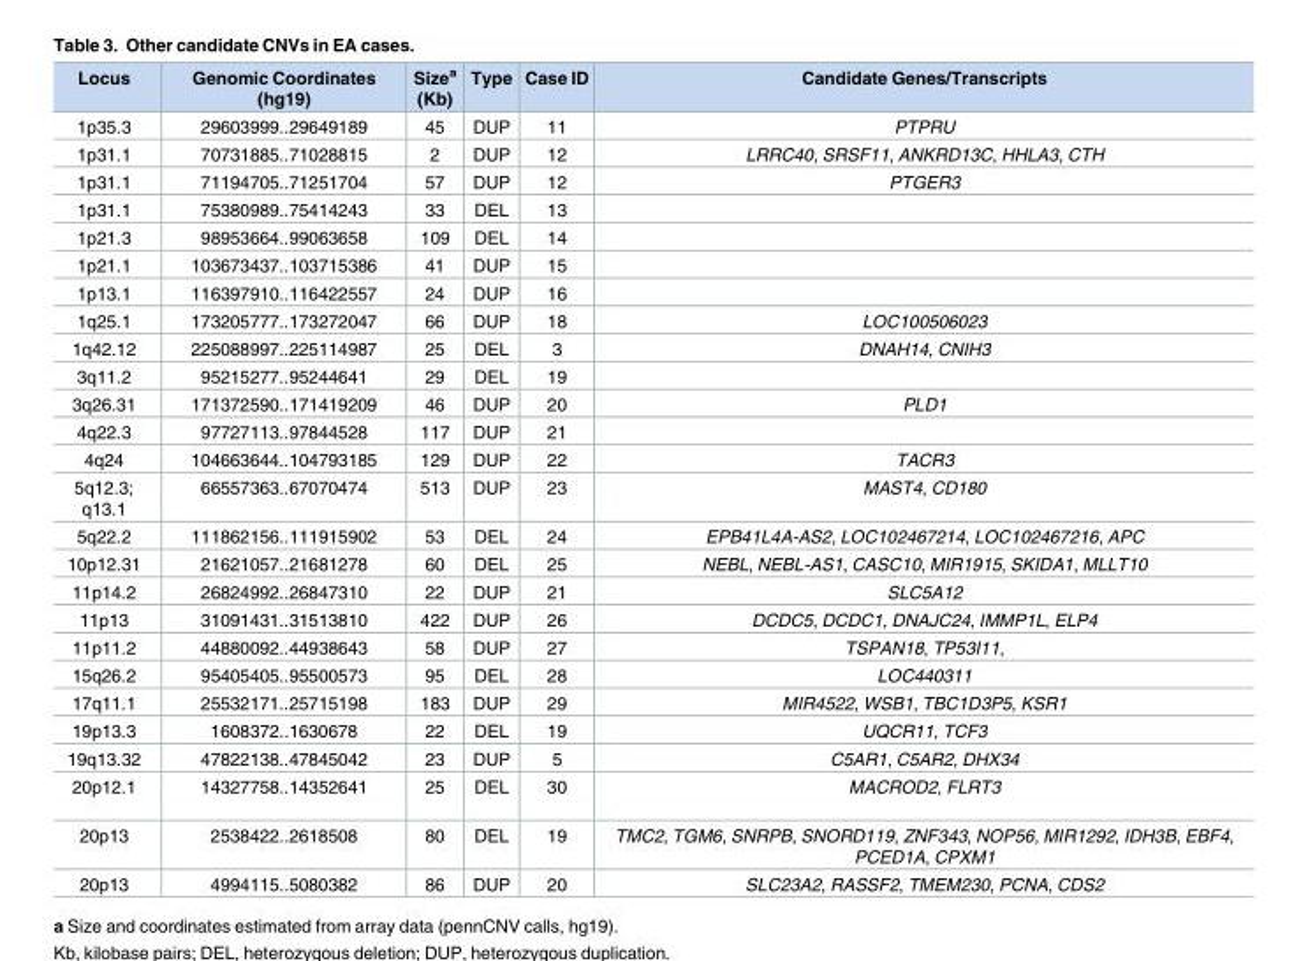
<table><thead><tr><td>Locus</td><td>Genomic Coordinates (hg19)</td><td>Size<sup>a</sup> (Kb)</td><td>Type</td><td>Case ID</td><td>Candidate Genes/Transcripts</td></tr></thead><tbody><tr><td>1p35.3</td><td>29603999..29649189</td><td>45</td><td>DUP</td><td>11</td><td>PTPRU</td></tr><tr><td>1p31.1</td><td>70731885..71028815</td><td>2</td><td>DUP</td><td>12</td><td>LRRC40, SRSF11, ANKRD13C, HHLA3, CTH</td></tr><tr><td>1p31.1</td><td>71194705..71251704</td><td>57</td><td>DUP</td><td>12</td><td>PTGER3</td></tr><tr><td>1p31.1</td><td>75380989..75414243</td><td>33</td><td>DEL</td><td>13</td><td></td></tr><tr><td>1p21.3</td><td>98953664..99063658</td><td>109</td><td>DEL</td><td>14</td><td></td></tr><tr><td>1p21.1</td><td>103673437..103715386</td><td>41</td><td>DUP</td><td>15</td><td></td></tr><tr><td>1p13.1</td><td>116397910..116422557</td><td>24</td><td>DUP</td><td>16</td><td></td></tr><tr><td>1q25.1</td><td>173205777..173272047</td><td>66</td><td>DUP</td><td>18</td><td>LOC100506023</td></tr><tr><td>1q42.12</td><td>225088997..225114987</td><td>25</td><td>DEL</td><td>3</td><td>DNAH14, CNIH3</td></tr><tr><td>3q11.2</td><td>95215277..95244641</td><td>29</td><td>DEL</td><td>19</td><td></td></tr><tr><td>3q26.31</td><td>171372590..171419209</td><td>46</td><td>DUP</td><td>20</td><td>PLD1</td></tr><tr><td>4q22.3</td><td>97727113..97844528</td><td>117</td><td>DUP</td><td>21</td><td></td></tr><tr><td>4q24</td><td>104663644..104793185</td><td>129</td><td>DUP</td><td>22</td><td>TACR3</td></tr><tr><td>5q12.3; q13.1</td><td>66557363..67070474</td><td>513</td><td>DUP</td><td>23</td><td>MAST4, CD180</td></tr><tr><td>5q22.2</td><td>111862156..111915902</td><td>53</td><td>DEL</td><td>24</td><td>EPB41L4A-AS2, LOC102467214, LOC102467216, APC</td></tr><tr><td>10p12.31</td><td>21621057..21681278</td><td>60</td><td>DEL</td><td>25</td><td>NEBL, NEBL-AS1, CASC10, MIR1915, SKIDA1, MLLT10</td></tr><tr><td>11p14.2</td><td>26824992..26847310</td><td>22</td><td>DUP</td><td>21</td><td>SLC5A12</td></tr><tr><td>11p13</td><td>31091431..31513810</td><td>422</td><td>DUP</td><td>26</td><td>DCDC5, DCDC1, DNAJC24, IMMP1L, ELP4</td></tr><tr><td>11p11.2</td><td>44880092..44938643</td><td>58</td><td>DUP</td><td>27</td><td>TSPAN18, TP53I11,</td></tr><tr><td>15q26.2</td><td>95405405..95500573</td><td>95</td><td>DEL</td><td>28</td><td>LOC440311</td></tr><tr><td>17q11.1</td><td>25532171..25715198</td><td>183</td><td>DUP</td><td>29</td><td>MIR4522, WSB1, TBC1D3P5, KSR1</td></tr><tr><td>19p13.3</td><td>1608372..1630678</td><td>22</td><td>DEL</td><td>19</td><td>UQCR11, TCF3</td></tr><tr><td>19q13.32</td><td>47822138..47845042</td><td>23</td><td>DUP</td><td>5</td><td>C5AR1, C5AR2, DHX34</td></tr><tr><td>20p12.1</td><td>14327758..14352641</td><td>25</td><td>DEL</td><td>30</td><td>MACROD2, FLRT3</td></tr><tr><td>20p13</td><td>2538422..2618508</td><td>80</td><td>DEL</td><td>19</td><td>TMC2, TGM6, SNRPB, SNORD119, ZNF343, NOP56, MIR1292, IDH3B, EBF4, PCED1A, CPXM1</td></tr><tr><td>20p13</td><td>4994115..5080382</td><td>86</td><td>DUP</td><td>20</td><td>SLC23A2, RASSF2, TMEM230, PCNA, CDS2</td></tr></tbody></table>